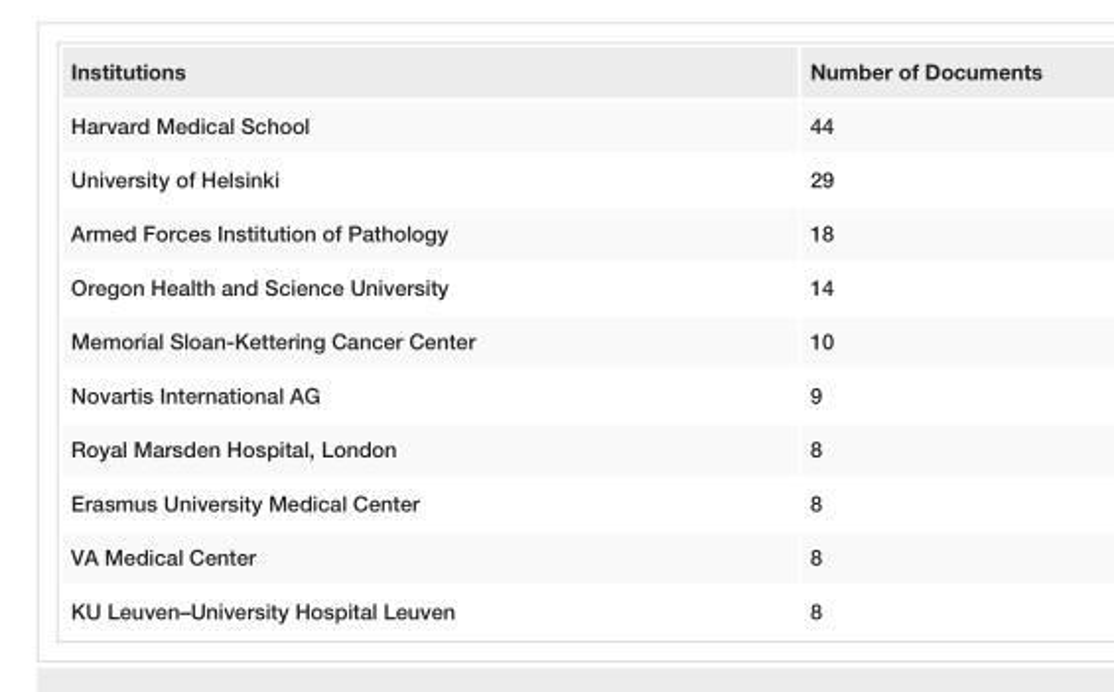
<table><tbody><tr><td>Institutions</td><td>Number of Documents</td></tr><tr><td>Harvard Medical School</td><td>44</td></tr><tr><td>University of Helsinki</td><td>29</td></tr><tr><td>Armed Forces Institution of Pathology</td><td>18</td></tr><tr><td>Oregon Health and Science University</td><td>14</td></tr><tr><td>Memorial Sloan-Kettering Cancer Center</td><td>10</td></tr><tr><td>Novartis International AG</td><td>9</td></tr><tr><td>Royal Marsden Hospital, London</td><td>8</td></tr><tr><td>Erasmus University Medical Center</td><td>8</td></tr><tr><td>VA Medical Center</td><td>8</td></tr><tr><td>KU Leuven–University Hospital Leuven</td><td>8</td></tr></tbody></table>